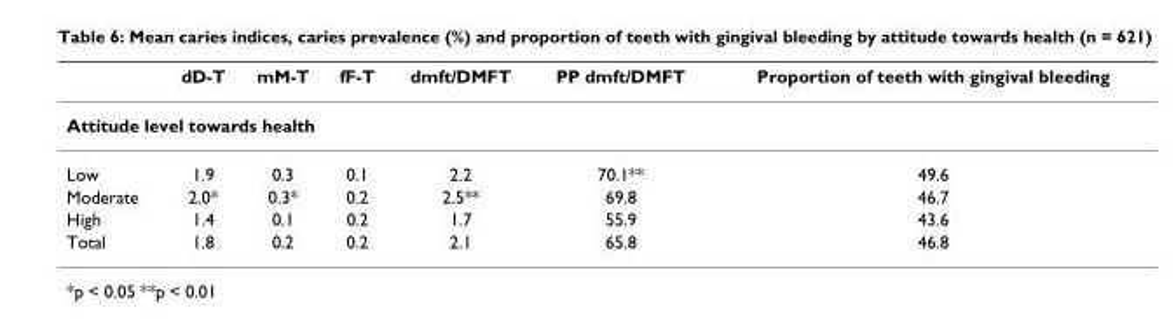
<table><thead><tr><td></td><td>dD-T</td><td>mM-T</td><td>fF-T</td><td>dmft/DMFT</td><td>PP dmft/DMFT</td><td>Proportion of teeth with gingival bleeding</td></tr></thead><tbody><tr><td colspan="7">Attitude level towards health</td></tr><tr><td>Low</td><td>1.9</td><td>0.3</td><td>0.1</td><td>2.2</td><td>70.1**</td><td>49.6</td></tr><tr><td>Moderate</td><td>2.0*</td><td>0.3*</td><td>0.2</td><td>2.5**</td><td>69.8</td><td>46.7</td></tr><tr><td>High</td><td>1.4</td><td>0.1</td><td>0.2</td><td>1.7</td><td>55.9</td><td>43.6</td></tr><tr><td>Total</td><td>1.8</td><td>0.2</td><td>0.2</td><td>2.1</td><td>65.8</td><td>46.8</td></tr></tbody></table>